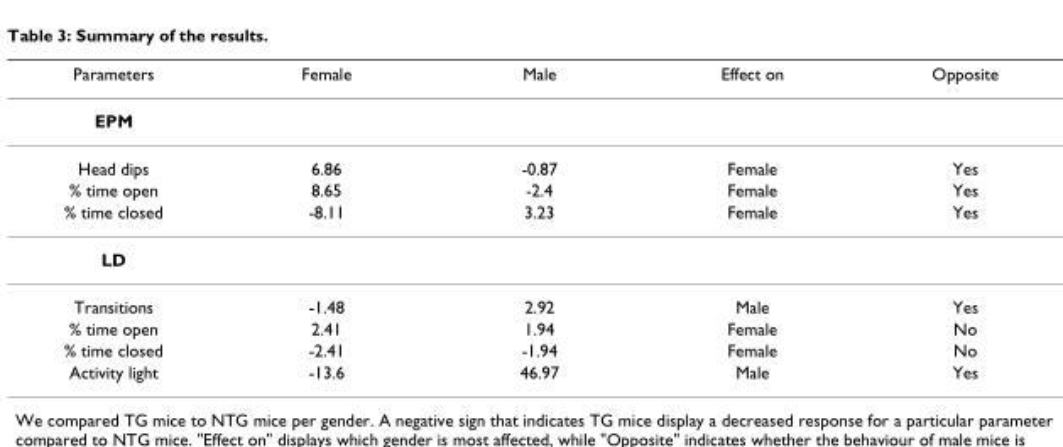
<table><thead><tr><td>Parameters</td><td>Female</td><td>Male</td><td>Effect on</td><td>Opposite</td></tr></thead><tbody><tr><td colspan="5">EPM</td></tr><tr><td>Head dips</td><td>6.86</td><td>-0.87</td><td>Female</td><td>Yes</td></tr><tr><td>% time open</td><td>8.65</td><td>-2.4</td><td>Female</td><td>Yes</td></tr><tr><td>% time closed</td><td>-8.11</td><td>3.23</td><td>Female</td><td>Yes</td></tr><tr><td colspan="5">LD</td></tr><tr><td>Transitions</td><td>-1.48</td><td>2.92</td><td>Male</td><td>Yes</td></tr><tr><td>% time open</td><td>2.41</td><td>1.94</td><td>Female</td><td>No</td></tr><tr><td>% time closed</td><td>-2.41</td><td>-1.94</td><td>Female</td><td>No</td></tr><tr><td>Activity light</td><td>-13.6</td><td>46.97</td><td>Male</td><td>Yes</td></tr></tbody></table>